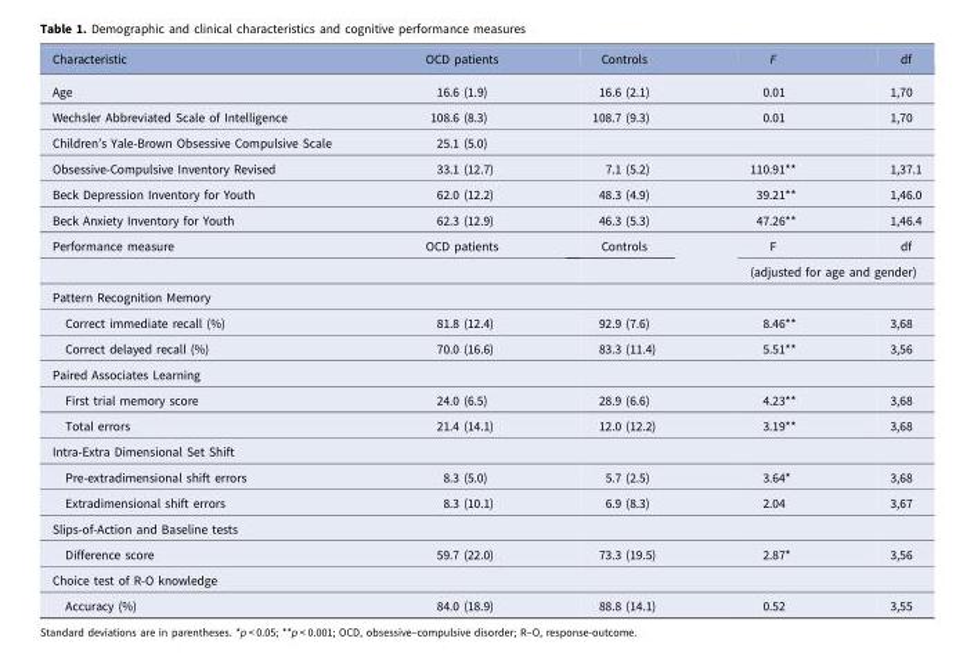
<table><thead><tr><td>Characteristic</td><td>OCD patients</td><td>Controls</td><td>F</td><td>df</td></tr></thead><tbody><tr><td>Age</td><td>16.6 (1.9)</td><td>16.6 (2.1)</td><td>0.01</td><td>1,70</td></tr><tr><td>Wechsler Abbreviated Scale of Intelligence</td><td>108.6 (8.3)</td><td>108.7 (9.3)</td><td>0.01</td><td>1,70</td></tr><tr><td>Children’s Yale-Brown Obsessive Compulsive Scale</td><td>25.1 (5.0)</td><td></td><td></td><td></td></tr><tr><td>Obsessive-Compulsive Inventory Revised</td><td>33.1 (12.7)</td><td>7.1 (5.2)</td><td>110.91**</td><td>1,37.1</td></tr><tr><td>Beck Depression Inventory for Youth</td><td>62.0 (12.2)</td><td>48.3 (4.9)</td><td>39.21**</td><td>1,46.0</td></tr><tr><td>Beck Anxiety Inventory for Youth</td><td>62.3 (12.9)</td><td>46.3 (5.3)</td><td>47.26**</td><td>1,46.4</td></tr><tr><td rowspan="2">Performance measure</td><td>OCD patients</td><td rowspan="2">Controls</td><td>F</td><td>df</td></tr><tr><td></td><td colspan="2">(adjusted for age and gender)</td></tr><tr><td colspan="5">Pattern Recognition Memory</td></tr><tr><td>Correct immediate recall (%)</td><td>81.8 (12.4)</td><td>92.9 (7.6)</td><td>8.46**</td><td>3,68</td></tr><tr><td>Correct delayed recall (%)</td><td>70.0 (16.6)</td><td>83.3 (11.4)</td><td>5.51**</td><td>3,56</td></tr><tr><td colspan="5">Paired Associates Learning</td></tr><tr><td>First trial memory score</td><td>24.0 (6.5)</td><td>28.9 (6.6)</td><td>4.23**</td><td>3,68</td></tr><tr><td>Total errors</td><td>21.4 (14.1)</td><td>12.0 (12.2)</td><td>3.19**</td><td>3,68</td></tr><tr><td colspan="5">Intra-Extra Dimensional Set Shift</td></tr><tr><td>Pre-extradimensional shift errors</td><td>8.3 (5.0)</td><td>5.7 (2.5)</td><td>3.64*</td><td>3,68</td></tr><tr><td>Extradimensional shift errors</td><td>8.3 (10.1)</td><td>6.9 (8.3)</td><td>2.04</td><td>3,67</td></tr><tr><td colspan="5">Slips-of-Action and Baseline tests</td></tr><tr><td>Difference score</td><td>59.7 (22.0)</td><td>73.3 (19.5)</td><td>2.87*</td><td>3,56</td></tr><tr><td colspan="5">Choice test of R-O knowledge</td></tr><tr><td>Accuracy (%)</td><td>84.0 (18.9)</td><td>88.8 (14.1)</td><td>0.52</td><td>3,55</td></tr></tbody></table>